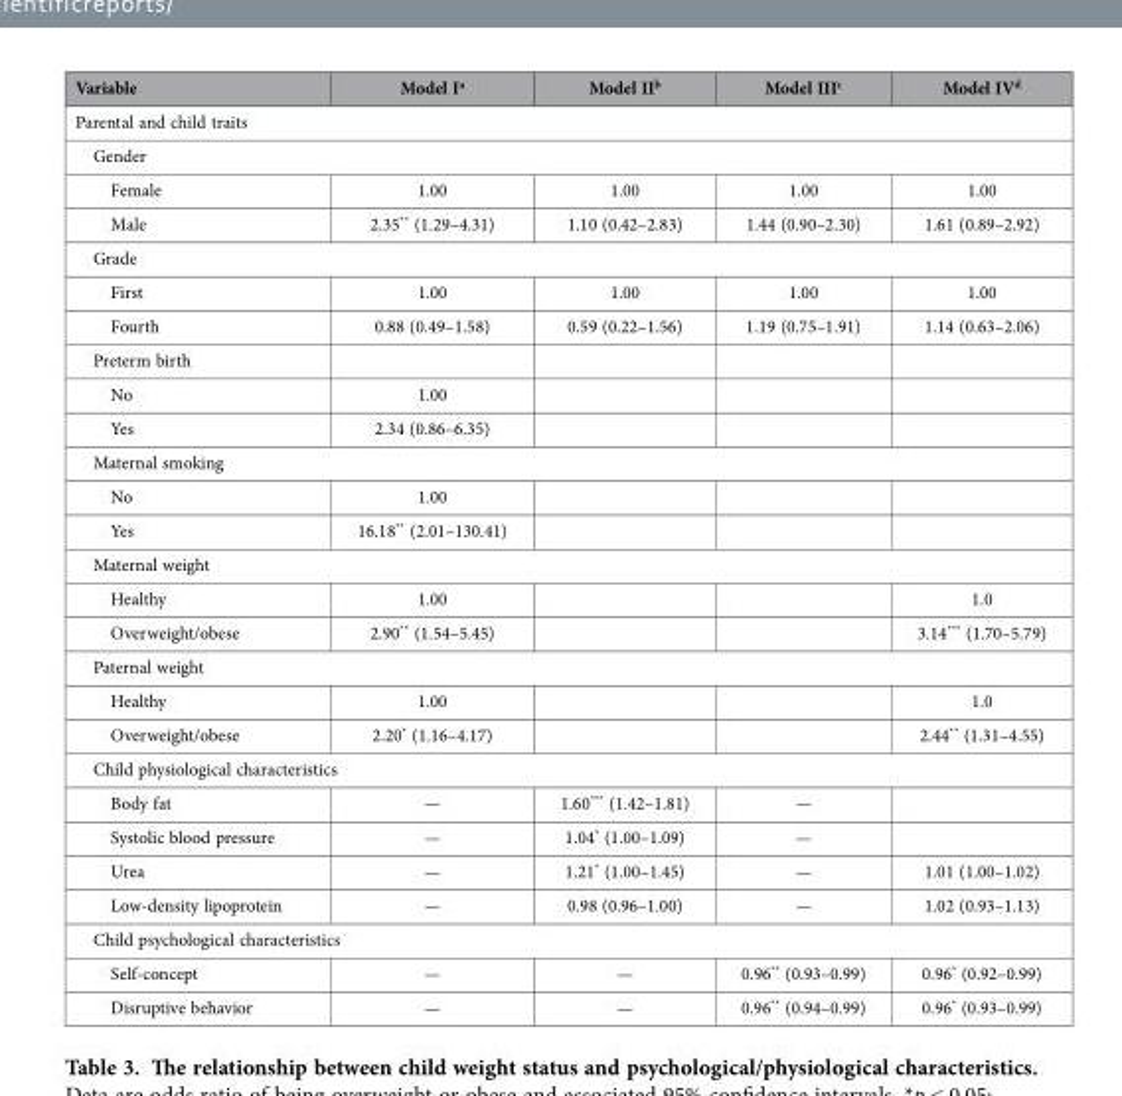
<table><thead><tr><td>Variable</td><td>Model I<sup>a</sup></td><td>Model II<sup>b</sup></td><td>Model III<sup>c</sup></td><td>Model IV<sup>d</sup></td></tr></thead><tbody><tr><td colspan="5">Parental and child traits</td></tr><tr><td colspan="5">Gender</td></tr><tr><td>Female</td><td>1.00</td><td>1.00</td><td>1.00</td><td>1.00</td></tr><tr><td>Male</td><td>2.35** (1.29–4.31)</td><td>1.10 (0.42–2.83)</td><td>1.44 (0.90–2.30)</td><td>1.61 (0.89–2.92)</td></tr><tr><td colspan="5">Grade</td></tr><tr><td>First</td><td>1.00</td><td>1.00</td><td>1.00</td><td>1.00</td></tr><tr><td>Fourth</td><td>0.88 (0.49–1.58)</td><td>0.59 (0.22–1.56)</td><td>1.19 (0.75–1.91)</td><td>1.14 (0.63–2.06)</td></tr><tr><td colspan="5">Preterm birth</td></tr><tr><td>No</td><td>1.00</td><td></td><td></td><td></td></tr><tr><td>Yes</td><td>2.34 (0.86–6.35)</td><td></td><td></td><td></td></tr><tr><td colspan="5">Maternal smoking</td></tr><tr><td>No</td><td>1.00</td><td></td><td></td><td></td></tr><tr><td>Yes</td><td>16.18** (2.01–130.41)</td><td></td><td></td><td></td></tr><tr><td colspan="5">Maternal weight</td></tr><tr><td>Healthy</td><td>1.00</td><td></td><td></td><td>1.0</td></tr><tr><td>Overweight/obese</td><td>2.90** (1.54–5.45)</td><td></td><td></td><td>3.14*** (1.70–5.79)</td></tr><tr><td colspan="5">Paternal weight</td></tr><tr><td>Healthy</td><td>1.00</td><td></td><td></td><td>1.0</td></tr><tr><td>Overweight/obese</td><td>2.20* (1.16–4.17)</td><td></td><td></td><td>2.44** (1.31–4.55)</td></tr><tr><td colspan="5">Child physiological characteristics</td></tr><tr><td>Body fat</td><td>—</td><td>1.60*** (1.42–1.81)</td><td>—</td><td></td></tr><tr><td>Systolic blood pressure</td><td>—</td><td>1.04* (1.00–1.09)</td><td>—</td><td></td></tr><tr><td>Urea</td><td>—</td><td>1.21* (1.00–1.45)</td><td>—</td><td>1.01 (1.00–1.02)</td></tr><tr><td>Low-density lipoprotein</td><td>—</td><td>0.98 (0.96–1.00)</td><td>—</td><td>1.02 (0.93–1.13)</td></tr><tr><td colspan="5">Child psychological characteristics</td></tr><tr><td>Self-concept</td><td>—</td><td>—</td><td>0.96** (0.93–0.99)</td><td>0.96* (0.92–0.99)</td></tr><tr><td>Disruptive behavior</td><td>—</td><td>—</td><td>0.96** (0.94–0.99)</td><td>0.96* (0.93–0.99)</td></tr></tbody></table>